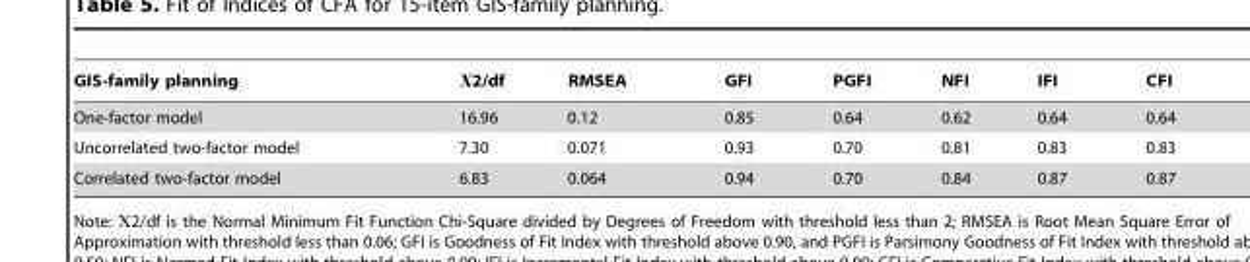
<table><thead><tr><td>GIS-family planning</td><td>X2/df</td><td>RMSEA</td><td>GFI</td><td>PGFI</td><td>NFI</td><td>IFI</td><td>CFI</td></tr></thead><tbody><tr><td>One-factor model</td><td>16.96</td><td>0.12</td><td>0.85</td><td>0.64</td><td>0.62</td><td>0.64</td><td>0.64</td></tr><tr><td>Uncorrelated two-factor model</td><td>7.30</td><td>0.071</td><td>0.93</td><td>0.70</td><td>0.81</td><td>0.83</td><td>0.83</td></tr><tr><td>Correlated two-factor model</td><td>6.83</td><td>0.064</td><td>0.94</td><td>0.70</td><td>0.84</td><td>0.87</td><td>0.87</td></tr></tbody></table>